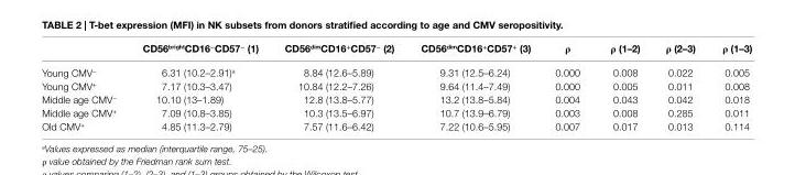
<table><thead><tr><td></td><td>cD56<sup>bright</sup>cD16<sup>−</sup>cD57<sup>−</sup> (1)</td><td>cD56<sup>dim</sup>cD16<sup>+</sup>cD57<sup>−</sup> (2)</td><td>cD56<sup>dim</sup>cD16<sup>+</sup>cD57<sup>+</sup> (3)</td><td>ρ</td><td>ρ (1–2)</td><td>ρ (2–3)</td><td>ρ (1–3)</td></tr></thead><tbody><tr><td>Young CMV<sup>−</sup></td><td>6.31 (10.2–2.91)<sup>a</sup></td><td>8.84 (12.6–5.89)</td><td>9.31 (12.5–6.24)</td><td>0.000</td><td>0.008</td><td>0.022</td><td>0.005</td></tr><tr><td>Young CMV<sup>+</sup></td><td>7.17 (10.3–3.47)</td><td>10.84 (12.2–7.26)</td><td>9.64 (11.4–7.49)</td><td>0.000</td><td>0.005</td><td>0.011</td><td>0.008</td></tr><tr><td>Middle age CMV<sup>−</sup></td><td>10.10 (13–1.89)</td><td>12.8 (13.8–5.77)</td><td>13.2 (13.8–5.84)</td><td>0.004</td><td>0.043</td><td>0.042</td><td>0.018</td></tr><tr><td>Middle age CMV<sup>+</sup></td><td>7.09 (10.8–3.85)</td><td>10.3 (13.5–6.97)</td><td>10.7 (13.9–6.79)</td><td>0.003</td><td>0.008</td><td>0.285</td><td>0.011</td></tr><tr><td>Old CMV<sup>+</sup></td><td>4.85 (11.3–2.79)</td><td>7.57 (11.6–6.42)</td><td>7.22 (10.6–5.95)</td><td>0.007</td><td>0.017</td><td>0.013</td><td>0.114</td></tr></tbody></table>